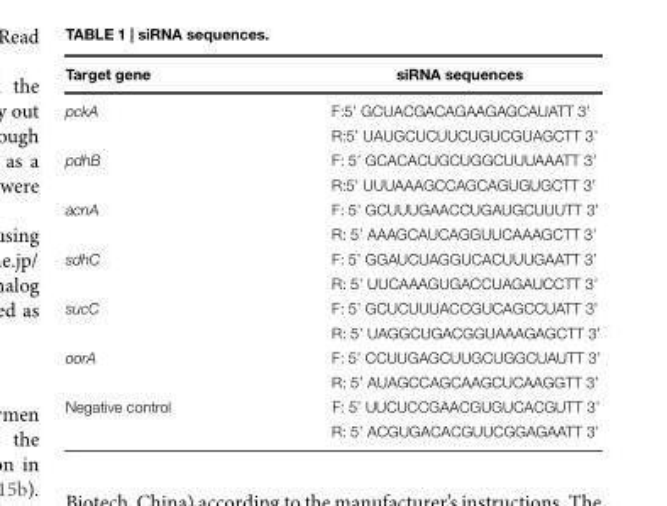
<table><thead><tr><td>Target gene</td><td>siRNA sequences</td></tr></thead><tbody><tr><td rowspan="2">pckA</td><td>F:5’ GCUACGACAGAAGAGCAUATT 3’</td></tr><tr><td>R:5’ UAUGCUCUUCUGUCGUAGCTT 3’</td></tr><tr><td rowspan="2">pdhB</td><td>F: 5’ GCACACUGCUGGCUUUAAATT 3’</td></tr><tr><td>R:5’ UUUAAAGCCAGCAGUGUGCTT 3’</td></tr><tr><td rowspan="2">acnA</td><td>F: 5’ GCUUUGAACCUGAUGCUUUTT 3’</td></tr><tr><td>R: 5’ AAAGCAUCAGGUUCAAAGCTT 3’</td></tr><tr><td rowspan="2">sdhC</td><td>F: 5’ GGAUCUAGGUCACUUUGAATT 3’</td></tr><tr><td>R: 5’ UUCAAAGUGACCUAGAUCCTT 3’</td></tr><tr><td rowspan="2">sucC</td><td>F: 5’ GCUCUUUACCGUCAGCCUATT 3’</td></tr><tr><td>R: 5’ UAGGCUGACGGUAAAGAGCTT 3’</td></tr><tr><td rowspan="2">oorA</td><td>F: 5’ CCUUGAGCUUGCUGGCUAUTT 3’</td></tr><tr><td>R: 5’ AUAGCCAGCAAGCUCAAGGTT 3’</td></tr><tr><td rowspan="2">Negative control</td><td>F: 5’ UUCUCCGAACGUGUCACGUTT 3’</td></tr><tr><td>R: 5’ ACGUGACACGUUCGGAGAATT 3’</td></tr></tbody></table>